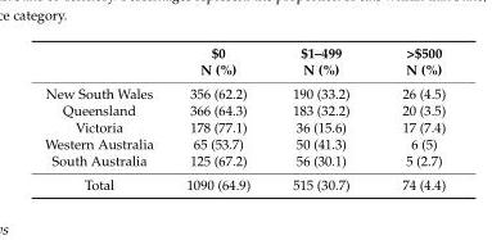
<table><thead><tr><td></td><td>$0 N (%)</td><td>$1–499 N (%)</td><td>&gt;$500 N (%)</td></tr></thead><tbody><tr><td>New South Wales</td><td>356 (62.2)</td><td>190 (33.2)</td><td>26 (4.5)</td></tr><tr><td>Queensland</td><td>366 (64.3)</td><td>183 (32.2)</td><td>20 (3.5)</td></tr><tr><td>Victoria</td><td>178 (77.1)</td><td>36 (15.6)</td><td>17 (7.4)</td></tr><tr><td>Western Australia</td><td>65 (53.7)</td><td>50 (41.3)</td><td>6 (5)</td></tr><tr><td>South Australia</td><td>125 (67.2)</td><td>56 (30.1)</td><td>5 (2.7)</td></tr><tr><td>Total</td><td>1090 (64.9)</td><td>515 (30.7)</td><td>74 (4.4)</td></tr></tbody></table>